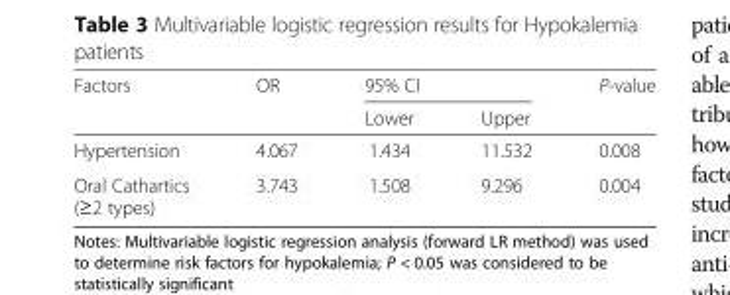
<table><thead><tr><td rowspan="2">Factors</td><td rowspan="2">OR</td><td colspan="2">95% CI</td><td rowspan="2">P-value</td></tr><tr><td>Lower</td><td>Upper</td></tr></thead><tbody><tr><td>Hypertension</td><td>4.067</td><td>1.434</td><td>11.532</td><td>0.008</td></tr><tr><td>Oral Cathartics (≥2 types)</td><td>3.743</td><td>1.508</td><td>9.296</td><td>0.004</td></tr></tbody></table>